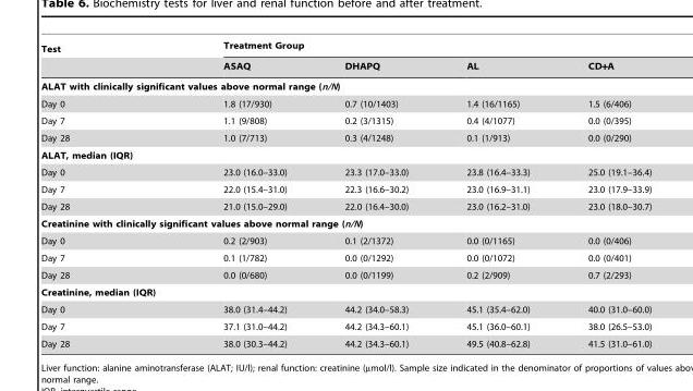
<table><thead><tr><td rowspan="2">Test</td><td colspan="4">Treatment Group</td></tr><tr><td>ASAQ</td><td>DHAPQ</td><td>AL</td><td>CD+A</td></tr></thead><tbody><tr><td colspan="5">ALAT with clinically significant values above normal range (n/N)</td></tr><tr><td>Day 0</td><td>1.8 (17/930)</td><td>0.7 (10/1403)</td><td>1.4 (16/1165)</td><td>1.5 (6/406)</td></tr><tr><td>Day 7</td><td>1.1 (9/808)</td><td>0.2 (3/1315)</td><td>0.4 (4/1077)</td><td>0.0 (0/395)</td></tr><tr><td>Day 28</td><td>1.0 (7/713)</td><td>0.3 (4/1248)</td><td>0.1 (1/913)</td><td>0.0 (0/290)</td></tr><tr><td colspan="5">ALAT, median (IQR)</td></tr><tr><td>Day 0</td><td>23.0 (16.0–33.0)</td><td>23.3 (17.0–33.0)</td><td>23.8 (16.4–33.3)</td><td>25.0 (19.1–36.4)</td></tr><tr><td>Day 7</td><td>22.0 (15.4–31.0)</td><td>22.3 (16.6–30.2)</td><td>23.0 (16.9–31.1)</td><td>23.0 (17.9–33.9)</td></tr><tr><td>Day 28</td><td>21.0 (15.0–29.0)</td><td>22.0 (16.4–30.0)</td><td>23.0 (16.2–31.0)</td><td>23.0 (18.0–30.7)</td></tr><tr><td colspan="5">Creatinine with clinically significant values above normal range (n/N)</td></tr><tr><td>Day 0</td><td>0.2 (2/903)</td><td>0.1 (2/1372)</td><td>0.0 (0/1165)</td><td>0.0 (0/406)</td></tr><tr><td>Day 7</td><td>0.1 (1/782)</td><td>0.0 (0/1292)</td><td>0.0 (0/1072)</td><td>0.0 (0/401)</td></tr><tr><td>Day 28</td><td>0.0 (0/680)</td><td>0.0 (0/1199)</td><td>0.2 (2/909)</td><td>0.7 (2/293)</td></tr><tr><td colspan="5">Creatinine, median (IQR)</td></tr><tr><td>Day 0</td><td>38.0 (31.4–44.2)</td><td>44.2 (34.0–58.3)</td><td>45.1 (35.4–62.0)</td><td>40.0 (31.0–60.0)</td></tr><tr><td>Day 7</td><td>37.1 (31.0–44.2)</td><td>44.2 (34.3–60.1)</td><td>45.1 (36.0–60.1)</td><td>38.0 (26.5–53.0)</td></tr><tr><td>Day 28</td><td>38.0 (30.3–44.2)</td><td>44.2 (34.3–60.1)</td><td>49.5 (40.8–62.8)</td><td>41.5 (31.0–61.0)</td></tr></tbody></table>